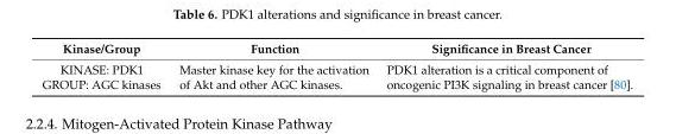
<table><thead><tr><td>Kinase/Group</td><td>Function</td><td>Significance in Breast Cancer</td></tr></thead><tbody><tr><td>KINASE: PDK1 GROUP: AGC kinases</td><td>Master kinase key for the activation of Akt and other AGC kinases.</td><td>PDK1 alteration is a critical component of oncogenic PI3K signaling in breast cancer [80].</td></tr></tbody></table>